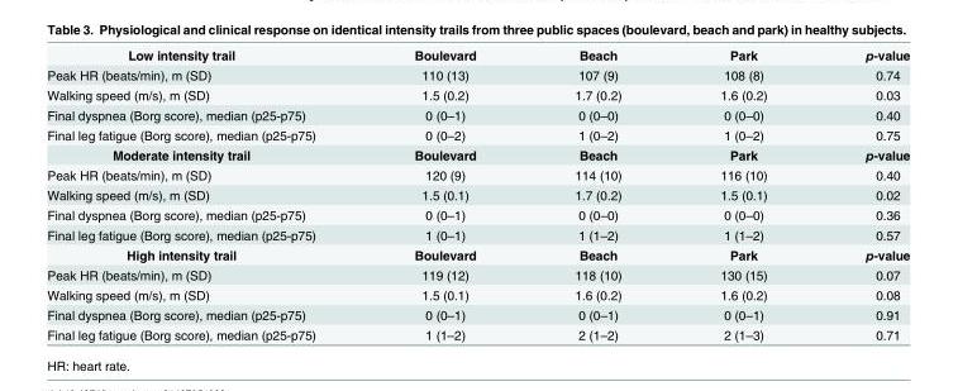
<table><tbody><tr><td>Low intensity trail</td><td>Boulevard</td><td>Beach</td><td>Park</td><td>p-value</td></tr><tr><td>Peak HR (beats/min), m (SD)</td><td>110 (13)</td><td>107 (9)</td><td>108 (8)</td><td>0.74</td></tr><tr><td>Walking speed (m/s), m (SD)</td><td>1.5 (0.2)</td><td>1.7 (0.2)</td><td>1.6 (0.2)</td><td>0.03</td></tr><tr><td>Final dyspnea (Borg score), median (p25-p75)</td><td>0 (0–1)</td><td>0 (0–0)</td><td>0 (0–0)</td><td>0.40</td></tr><tr><td>Final leg fatigue (Borg score), median (p25-p75)</td><td>0 (0–2)</td><td>1 (0–2)</td><td>1 (0–2)</td><td>0.75</td></tr><tr><td>Moderate intensity trail</td><td>Boulevard</td><td>Beach</td><td>Park</td><td>p-value</td></tr><tr><td>Peak HR (beats/min), m (SD)</td><td>120 (9)</td><td>114 (10)</td><td>116 (10)</td><td>0.40</td></tr><tr><td>Walking speed (m/s), m (SD)</td><td>1.5 (0.1)</td><td>1.7 (0.2)</td><td>1.5 (0.1)</td><td>0.02</td></tr><tr><td>Final dyspnea (Borg score), median (p25-p75)</td><td>0 (0–1)</td><td>0 (0–0)</td><td>0 (0–0)</td><td>0.36</td></tr><tr><td>Final leg fatigue (Borg score), median (p25-p75)</td><td>1 (0–1)</td><td>1 (1–2)</td><td>1 (1–2)</td><td>0.57</td></tr><tr><td>High intensity trail</td><td>Boulevard</td><td>Beach</td><td>Park</td><td>p-value</td></tr><tr><td>Peak HR (beats/min), m (SD)</td><td>119 (12)</td><td>118 (10)</td><td>130 (15)</td><td>0.07</td></tr><tr><td>Walking speed (m/s), m (SD)</td><td>1.5 (0.1)</td><td>1.6 (0.2)</td><td>1.6 (0.2)</td><td>0.08</td></tr><tr><td>Final dyspnea (Borg score), median (p25-p75)</td><td>0 (0–1)</td><td>0 (0–1)</td><td>0 (0–1)</td><td>0.91</td></tr><tr><td>Final leg fatigue (Borg score), median (p25-p75)</td><td>1 (1–2)</td><td>2 (1–2)</td><td>2 (1–3)</td><td>0.71</td></tr></tbody></table>